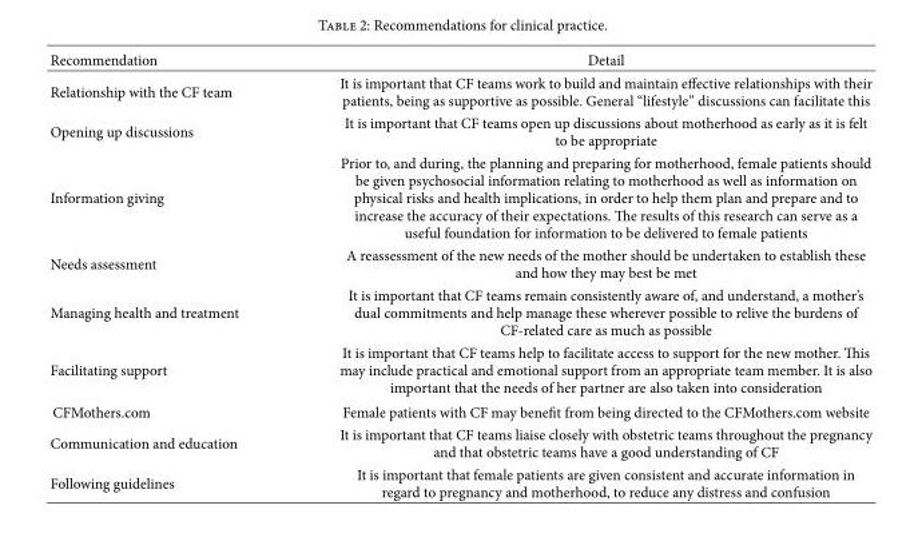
<table><thead><tr><td>Recommendation</td><td>Detail</td></tr></thead><tbody><tr><td>Relationship with the CF team</td><td>It is important that CF teams work to build and maintain effective relationships with their patients, being as supportive as possible. General “lifestyle” discussions can facilitate this</td></tr><tr><td>Opening up discussions</td><td>It is important that CF teams open up discussions about motherhood as early as it is felt to be appropriate</td></tr><tr><td>Information giving</td><td>Prior to, and during, the planning and preparing for motherhood, female patients should be given psychosocial information relating to motherhood as well as information on physical risks and health implications, in order to help them plan and prepare and to increase the accuracy of their expectations. The results of this research can serve as a useful foundation for information to be delivered to female patients</td></tr><tr><td>Needs assessment</td><td>A reassessment of the new needs of the mother should be undertaken to establish these and how they may best be met</td></tr><tr><td>Managing health and treatment</td><td>It is important that CF teams remain consistently aware of, and understand, a mother’s dual commitments and help manage these wherever possible to relive the burdens of CF-related care as much as possible</td></tr><tr><td>Facilitating support</td><td>It is important that CF teams help to facilitate access to support for the new mother. This may include practical and emotional support from an appropriate team member. It is also important that the needs of her partner are also taken into consideration</td></tr><tr><td>CFMothers.com</td><td>Female patients with CF may benefit from being directed to the CFMothers.com website</td></tr><tr><td>Communication and education</td><td>It is important that CF teams liaise closely with obstetric teams throughout the pregnancy and that obstetric teams have a good understanding of CF</td></tr><tr><td>Following guidelines</td><td>It is important that female patients are given consistent and accurate information in regard to pregnancy and motherhood, to reduce any distress and confusion</td></tr></tbody></table>